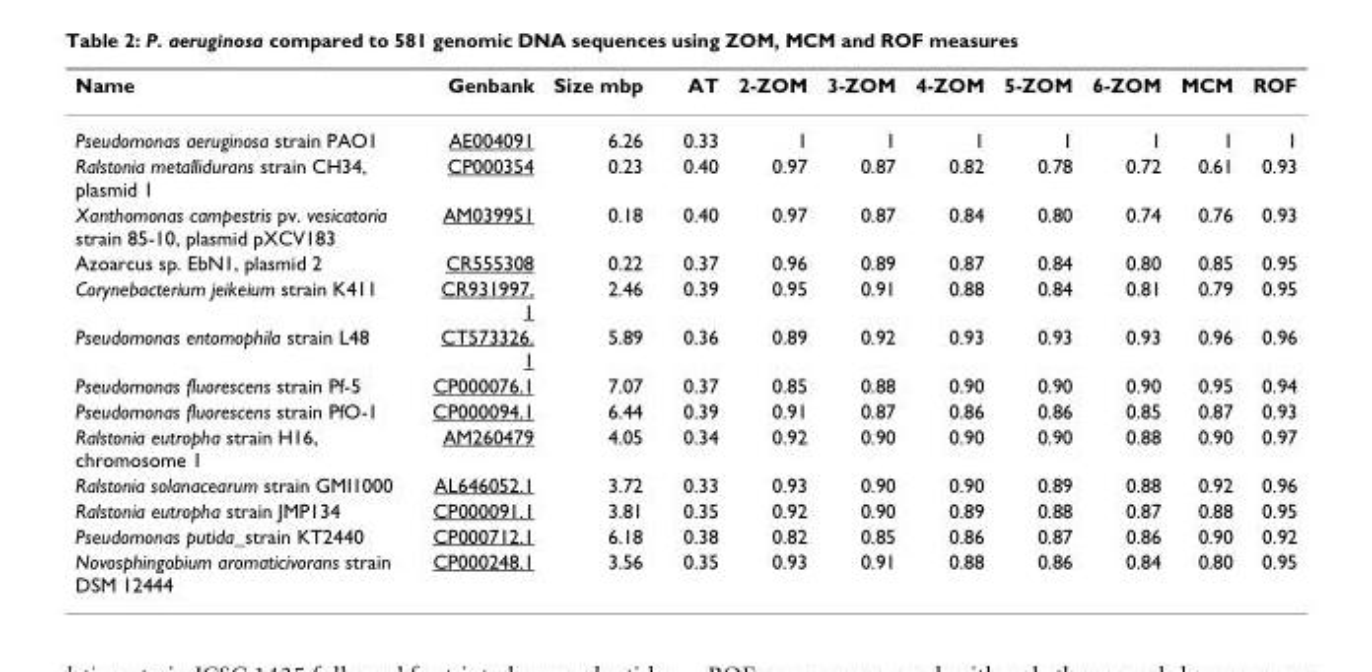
<table><thead><tr><td>Name</td><td>Genbank</td><td>Size mbp</td><td>AT</td><td>2-ZOM</td><td>3-ZOM</td><td>4-ZOM</td><td>5-ZOM</td><td>6-ZOM</td><td>MCM</td><td>ROF</td></tr></thead><tbody><tr><td>Pseudomonas aeruginosa strain PAO1</td><td>AE004091</td><td>6.26</td><td>0.33</td><td>1</td><td>1</td><td>1</td><td>1</td><td>1</td><td>1</td><td>1</td></tr><tr><td>Ralstonia metallidurans strain CH34, plasmid 1</td><td>CP000354</td><td>0.23</td><td>0.40</td><td>0.97</td><td>0.87</td><td>0.82</td><td>0.78</td><td>0.72</td><td>0.61</td><td>0.93</td></tr><tr><td>Xanthomonas campestris pv. vesicatoria strain 85-10, plasmid pXCV183</td><td>AM039951</td><td>0.18</td><td>0.40</td><td>0.97</td><td>0.87</td><td>0.84</td><td>0.80</td><td>0.74</td><td>0.76</td><td>0.93</td></tr><tr><td>Azoarcus sp. EbN1, plasmid 2</td><td>CR555308</td><td>0.22</td><td>0.37</td><td>0.96</td><td>0.89</td><td>0.87</td><td>0.84</td><td>0.80</td><td>0.85</td><td>0.95</td></tr><tr><td>Corynebacterium jeikeium strain K411</td><td>CR931997. 1</td><td>2.46</td><td>0.39</td><td>0.95</td><td>0.91</td><td>0.88</td><td>0.84</td><td>0.81</td><td>0.79</td><td>0.95</td></tr><tr><td>Pseudomonas entomophila strain L48</td><td>CT573326. 1</td><td>5.89</td><td>0.36</td><td>0.89</td><td>0.92</td><td>0.93</td><td>0.93</td><td>0.93</td><td>0.96</td><td>0.96</td></tr><tr><td>Pseudomonas fluorescens strain Pf-5</td><td>CP000076.1</td><td>7.07</td><td>0.37</td><td>0.85</td><td>0.88</td><td>0.90</td><td>0.90</td><td>0.90</td><td>0.95</td><td>0.94</td></tr><tr><td>Pseudomonas fluorescens strain PfO-1</td><td>CP000094.1</td><td>6.44</td><td>0.39</td><td>0.91</td><td>0.87</td><td>0.86</td><td>0.86</td><td>0.85</td><td>0.87</td><td>0.93</td></tr><tr><td>Ralstonia eutropha strain H16, chromosome 1</td><td>AM260479</td><td>4.05</td><td>0.34</td><td>0.92</td><td>0.90</td><td>0.90</td><td>0.90</td><td>0.88</td><td>0.90</td><td>0.97</td></tr><tr><td>Ralstonia solanacearum strain GMI1000</td><td>AL646052.1</td><td>3.72</td><td>0.33</td><td>0.93</td><td>0.90</td><td>0.90</td><td>0.89</td><td>0.88</td><td>0.92</td><td>0.96</td></tr><tr><td>Ralstonia eutropha strain JMP134</td><td>CP000091.1</td><td>3.81</td><td>0.35</td><td>0.92</td><td>0.90</td><td>0.89</td><td>0.88</td><td>0.87</td><td>0.88</td><td>0.95</td></tr><tr><td>Pseudomonas putida_strain KT2440</td><td>CP000712.1</td><td>6.18</td><td>0.38</td><td>0.82</td><td>0.85</td><td>0.86</td><td>0.87</td><td>0.86</td><td>0.90</td><td>0.92</td></tr><tr><td>Novosphingobium aromaticivorans strain DSM 12444</td><td>CP000248.1</td><td>3.56</td><td>0.35</td><td>0.93</td><td>0.91</td><td>0.88</td><td>0.86</td><td>0.84</td><td>0.80</td><td>0.95</td></tr></tbody></table>